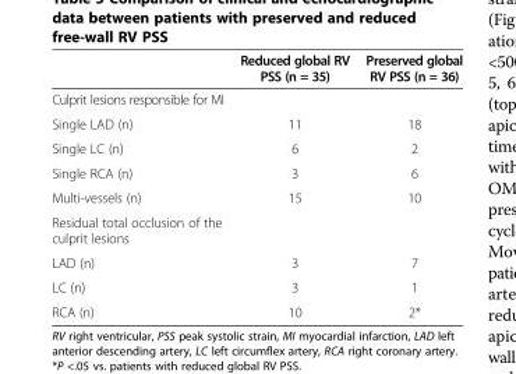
<table><thead><tr><td></td><td>Reduced global RV PSS (n = 35)</td><td>Preserved global RV PSS (n = 36)</td></tr></thead><tbody><tr><td colspan="3">Culprit lesions responsible for MI</td></tr><tr><td>Single LAD (n)</td><td>11</td><td>18</td></tr><tr><td>Single LC (n)</td><td>6</td><td>2</td></tr><tr><td>Single RCA (n)</td><td>3</td><td>6</td></tr><tr><td>Multi-vessels (n)</td><td>15</td><td>10</td></tr><tr><td colspan="3">Residual total occlusion of the culprit lesions</td></tr><tr><td>LAD (n)</td><td>3</td><td>7</td></tr><tr><td>LC (n)</td><td>3</td><td>1</td></tr><tr><td>RCA (n)</td><td>10</td><td>2*</td></tr></tbody></table>